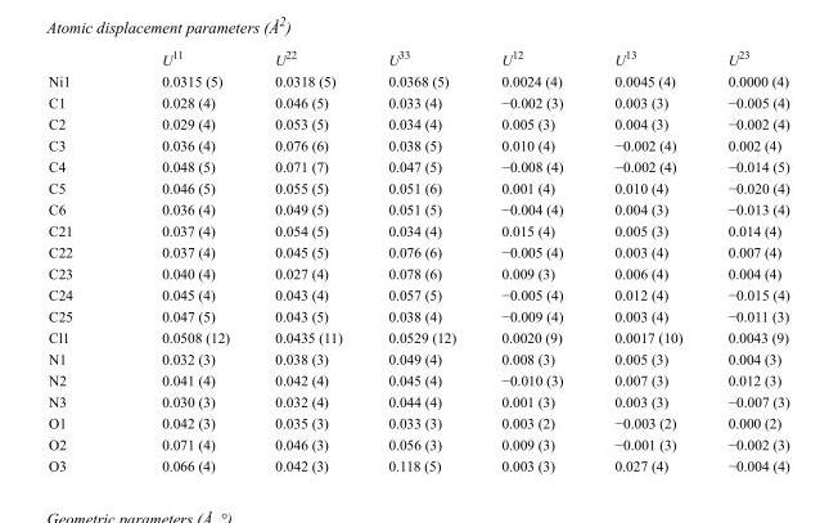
<table><thead><tr><td></td><td>U<sup>11</sup></td><td>U<sup>22</sup></td><td>U<sup>33</sup></td><td>U<sup>12</sup></td><td>U<sup>13</sup></td><td>U<sup>23</sup></td></tr></thead><tbody><tr><td>Ni1</td><td>0.0315 (5)</td><td>0.0318 (5)</td><td>0.0368 (5)</td><td>0.0024 (4)</td><td>0.0045 (4)</td><td>0.0000 (4)</td></tr><tr><td>C1</td><td>0.028 (4)</td><td>0.046 (5)</td><td>0.033 (4)</td><td>−0.002 (3)</td><td>0.003 (3)</td><td>−0.005 (4)</td></tr><tr><td>C2</td><td>0.029 (4)</td><td>0.053 (5)</td><td>0.034 (4)</td><td>0.005 (3)</td><td>0.004 (3)</td><td>−0.002 (4)</td></tr><tr><td>C3</td><td>0.036 (4)</td><td>0.076 (6)</td><td>0.038 (5)</td><td>0.010 (4)</td><td>−0.002 (4)</td><td>0.002 (4)</td></tr><tr><td>C4</td><td>0.048 (5)</td><td>0.071 (7)</td><td>0.047 (5)</td><td>−0.008 (4)</td><td>−0.002 (4)</td><td>−0.014 (5)</td></tr><tr><td>C5</td><td>0.046 (5)</td><td>0.055 (5)</td><td>0.051 (6)</td><td>0.001 (4)</td><td>0.010 (4)</td><td>−0.020 (4)</td></tr><tr><td>C6</td><td>0.036 (4)</td><td>0.049 (5)</td><td>0.051 (5)</td><td>−0.004 (4)</td><td>0.004 (3)</td><td>−0.013 (4)</td></tr><tr><td>C21</td><td>0.037 (4)</td><td>0.054 (5)</td><td>0.034 (4)</td><td>0.015 (4)</td><td>0.005 (3)</td><td>0.014 (4)</td></tr><tr><td>C22</td><td>0.037 (4)</td><td>0.045 (5)</td><td>0.076 (6)</td><td>−0.005 (4)</td><td>0.003 (4)</td><td>0.007 (4)</td></tr><tr><td>C23</td><td>0.040 (4)</td><td>0.027 (4)</td><td>0.078 (6)</td><td>0.009 (3)</td><td>0.006 (4)</td><td>0.004 (4)</td></tr><tr><td>C24</td><td>0.045 (4)</td><td>0.043 (4)</td><td>0.057 (5)</td><td>−0.005 (4)</td><td>0.012 (4)</td><td>−0.015 (4)</td></tr><tr><td>C25</td><td>0.047 (5)</td><td>0.043 (5)</td><td>0.038 (4)</td><td>−0.009 (4)</td><td>0.003 (4)</td><td>−0.011 (3)</td></tr><tr><td>Cl1</td><td>0.0508 (12)</td><td>0.0435 (11)</td><td>0.0529 (12)</td><td>0.0020 (9)</td><td>0.0017 (10)</td><td>0.0043 (9)</td></tr><tr><td>N1</td><td>0.032 (3)</td><td>0.038 (3)</td><td>0.049 (4)</td><td>0.008 (3)</td><td>0.005 (3)</td><td>0.004 (3)</td></tr><tr><td>N2</td><td>0.041 (4)</td><td>0.042 (4)</td><td>0.045 (4)</td><td>−0.010 (3)</td><td>0.007 (3)</td><td>0.012 (3)</td></tr><tr><td>N3</td><td>0.030 (3)</td><td>0.032 (4)</td><td>0.044 (4)</td><td>0.001 (3)</td><td>0.003 (3)</td><td>−0.007 (3)</td></tr><tr><td>O1</td><td>0.042 (3)</td><td>0.035 (3)</td><td>0.033 (3)</td><td>0.003 (2)</td><td>−0.003 (2)</td><td>0.000 (2)</td></tr><tr><td>O2</td><td>0.071 (4)</td><td>0.046 (3)</td><td>0.056 (3)</td><td>0.009 (3)</td><td>−0.001 (3)</td><td>−0.002 (3)</td></tr><tr><td>O3</td><td>0.066 (4)</td><td>0.042 (3)</td><td>0.118 (5)</td><td>0.003 (3)</td><td>0.027 (4)</td><td>−0.004 (4)</td></tr></tbody></table>